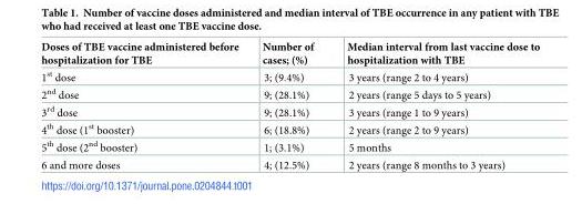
<table><thead><tr><td>Doses of TBE vaccine administered before hospitalization for TBE</td><td>Number of cases; (%)</td><td>Median interval from last vaccine dose to hospitalization with TBE</td></tr></thead><tbody><tr><td>1<sup>st</sup> dose</td><td>3; (9.4%)</td><td>3 years (range 2 to 4 years)</td></tr><tr><td>2<sup>nd</sup> dose</td><td>9; (28.1%)</td><td>2 years (range 5 days to 5 years)</td></tr><tr><td>3<sup>rd</sup> dose</td><td>9; (28.1%)</td><td>3 years (range 1 to 9 years)</td></tr><tr><td>4<sup>th</sup> dose (1<sup>st</sup> booster)</td><td>6; (18.8%)</td><td>2 years (range 2 to 9 years)</td></tr><tr><td>5<sup>th</sup> dose (2<sup>nd</sup> booster)</td><td>1; (3.1%)</td><td>5 months</td></tr><tr><td>6 and more doses</td><td>4; (12.5%)</td><td>2 years (range 8 months to 3 years)</td></tr></tbody></table>